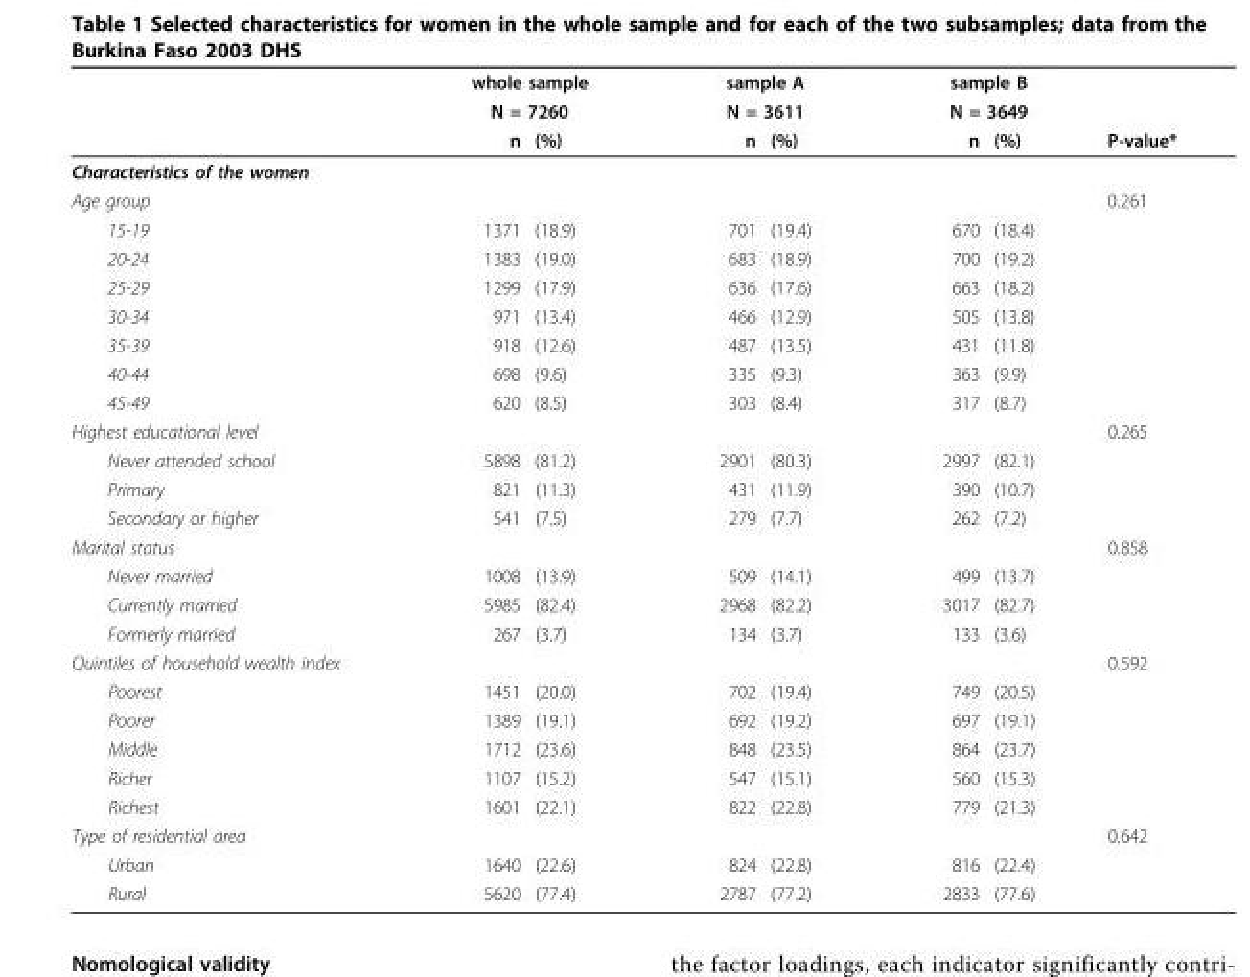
<table><thead><tr><td rowspan="3"></td><td rowspan="2" colspan="2">whole sample N = 7260</td><td rowspan="2" colspan="2">sample A N = 3611</td><td rowspan="2" colspan="2">sample B N = 3649</td><td rowspan="3">P-value*</td></tr><tr></tr><tr><td>n</td><td>(%)</td><td>n</td><td>(%)</td><td>n</td><td>(%)</td></tr></thead><tbody><tr><td colspan="8">Characteristics of the women</td></tr><tr><td>Age group</td><td></td><td></td><td></td><td></td><td></td><td></td><td>0.261</td></tr><tr><td>15-19</td><td>1371</td><td>(18.9)</td><td>701</td><td>(19.4)</td><td>670</td><td>(18.4)</td><td></td></tr><tr><td>20-24</td><td>1383</td><td>(19.0)</td><td>683</td><td>(18.9)</td><td>700</td><td>(19.2)</td><td></td></tr><tr><td>25-29</td><td>1299</td><td>(17.9)</td><td>636</td><td>(17.6)</td><td>663</td><td>(18.2)</td><td></td></tr><tr><td>30-34</td><td>971</td><td>(13.4)</td><td>466</td><td>(12.9)</td><td>505</td><td>(13.8)</td><td></td></tr><tr><td>35-39</td><td>918</td><td>(12.6)</td><td>487</td><td>(13.5)</td><td>431</td><td>(11.8)</td><td></td></tr><tr><td>40-44</td><td>698</td><td>(9.6)</td><td>335</td><td>(9.3)</td><td>363</td><td>(9.9)</td><td></td></tr><tr><td>45-49</td><td>620</td><td>(8.5)</td><td>303</td><td>(8.4)</td><td>317</td><td>(8.7)</td><td></td></tr><tr><td>Highest educational level</td><td></td><td></td><td></td><td></td><td></td><td></td><td>0.265</td></tr><tr><td>Never attended school</td><td>5898</td><td>(81.2)</td><td>2901</td><td>(80.3)</td><td>2997</td><td>(82.1)</td><td></td></tr><tr><td>Primary</td><td>821</td><td>(11.3)</td><td>431</td><td>(11.9)</td><td>390</td><td>(10.7)</td><td></td></tr><tr><td>Secondary or higher</td><td>541</td><td>(7.5)</td><td>279</td><td>(7.7)</td><td>262</td><td>(7.2)</td><td></td></tr><tr><td>Marital status</td><td></td><td></td><td></td><td></td><td></td><td></td><td>0.858</td></tr><tr><td>Never married</td><td>1008</td><td>(13.9)</td><td>509</td><td>(14.1)</td><td>499</td><td>(13.7)</td><td></td></tr><tr><td>Currently married</td><td>5985</td><td>(82.4)</td><td>2968</td><td>(82.2)</td><td>3017</td><td>(82.7)</td><td></td></tr><tr><td>Formerly married</td><td>267</td><td>(3.7)</td><td>134</td><td>(3.7)</td><td>133</td><td>(3.6)</td><td></td></tr><tr><td>Quintiles of household wealth index</td><td></td><td></td><td></td><td></td><td></td><td></td><td>0.592</td></tr><tr><td>Poorest</td><td>1451</td><td>(20.0)</td><td>702</td><td>(19.4)</td><td>749</td><td>(20.5)</td><td></td></tr><tr><td>Poorer</td><td>1389</td><td>(19.1)</td><td>692</td><td>(19.2)</td><td>697</td><td>(19.1)</td><td></td></tr><tr><td>Middle</td><td>1712</td><td>(23.6)</td><td>848</td><td>(23.5)</td><td>864</td><td>(23.7)</td><td></td></tr><tr><td>Richer</td><td>1107</td><td>(15.2)</td><td>547</td><td>(15.1)</td><td>560</td><td>(15.3)</td><td></td></tr><tr><td>Richest</td><td>1601</td><td>(22.1)</td><td>822</td><td>(22.8)</td><td>779</td><td>(21.3)</td><td></td></tr><tr><td>Type of residential area</td><td></td><td></td><td></td><td></td><td></td><td></td><td>0.642</td></tr><tr><td>Urban</td><td>1640</td><td>(22.6)</td><td>824</td><td>(22.8)</td><td>816</td><td>(22.4)</td><td></td></tr><tr><td>Rural</td><td>5620</td><td>(77.4)</td><td>2787</td><td>(77.2)</td><td>2833</td><td>(77.6)</td><td></td></tr></tbody></table>